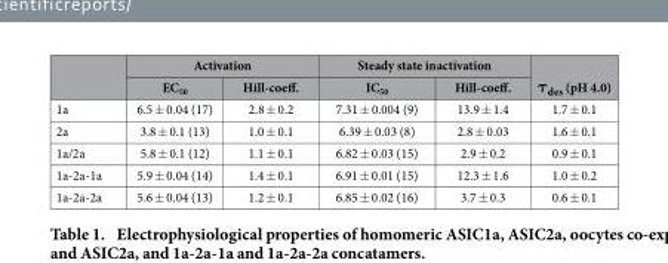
<table><thead><tr><td rowspan="2"></td><td colspan="2">Activation</td><td colspan="2">Steady state inactivation</td><td rowspan="2">τ <sub>des</sub> (pH 4.0)</td></tr><tr><td>EC<sub>50</sub></td><td>Hill-coeff.</td><td>IC<sub>50</sub></td><td>Hill-coeff.</td></tr></thead><tbody><tr><td>1a</td><td>6.5 ± 0.04 (17)</td><td>2.8 ± 0.2</td><td>7.31 ± 0.004 (9)</td><td>13.9 ± 1.4</td><td>1.7 ± 0.1</td></tr><tr><td>2a</td><td>3.8 ± 0.1 (13)</td><td>1.0 ± 0.1</td><td>6.39 ± 0.03 (8)</td><td>2.8 ± 0.03</td><td>1.6 ± 0.1</td></tr><tr><td>1a/2a</td><td>5.8 ± 0.1 (12)</td><td>1.1 ± 0.1</td><td>6.82 ± 0.03 (15)</td><td>2.9 ± 0.2</td><td>0.9 ± 0.1</td></tr><tr><td>1a-2a-1a</td><td>5.9 ± 0.04 (14)</td><td>1.4 ± 0.1</td><td>6.91 ± 0.01 (15)</td><td>12.3 ± 1.6</td><td>1.0 ± 0.2</td></tr><tr><td>1a-2a-2a</td><td>5.6 ± 0.04 (13)</td><td>1.2 ± 0.1</td><td>6.85 ± 0.02 (16)</td><td>3.7 ± 0.3</td><td>0.6 ± 0.1</td></tr></tbody></table>